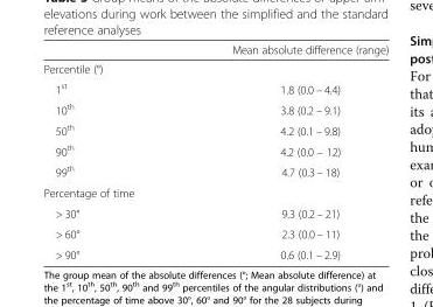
<table><thead><tr><td></td><td>Mean absolute difference (range)</td></tr></thead><tbody><tr><td colspan="2">Percentile (°)</td></tr><tr><td>1<sup>st</sup></td><td>1.8 (0.0 – 4.4)</td></tr><tr><td>10<sup>th</sup></td><td>3.8 (0.2 – 9.1)</td></tr><tr><td>50<sup>th</sup></td><td>4.2 (0.1 – 9.8)</td></tr><tr><td>90<sup>th</sup></td><td>4.2 (0.0 – 12)</td></tr><tr><td>99<sup>th</sup></td><td>4.7 (0.3 – 18)</td></tr><tr><td colspan="2">Percentage of time</td></tr><tr><td>&gt; 30°</td><td>9.3 (0.2 – 21)</td></tr><tr><td>&gt; 60°</td><td>2.3 (0.0 – 11)</td></tr><tr><td>&gt; 90°</td><td>0.6 (0.1 – 2.9)</td></tr></tbody></table>